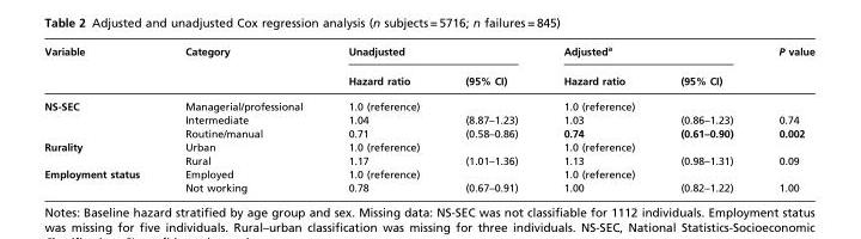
<table><thead><tr><td rowspan="2">Variable</td><td rowspan="2">Category</td><td colspan="2">Unadjusted</td><td colspan="2">Adjusted<sup>a</sup></td><td rowspan="2">P value</td></tr><tr><td>Hazard ratio</td><td>(95% CI)</td><td>Hazard ratio</td><td>(95% CI)</td></tr></thead><tbody><tr><td rowspan="3">NS-SEC</td><td>Managerial/professional</td><td>1.0 (reference)</td><td></td><td>1.0 (reference)</td><td></td><td></td></tr><tr><td>Intermediate</td><td>1.04</td><td>(8.87–1.23)</td><td>1.03</td><td>(0.86–1.23)</td><td>0.74</td></tr><tr><td>Routine/manual</td><td>0.71</td><td>(0.58–0.86)</td><td>0.74</td><td>(0.61–0.90)</td><td>0.002</td></tr><tr><td rowspan="2">Rurality</td><td>Urban</td><td>1.0 (reference)</td><td></td><td>1.0 (reference)</td><td></td><td></td></tr><tr><td>Rural</td><td>1.17</td><td>(1.01–1.36)</td><td>1.13</td><td>(0.98–1.31)</td><td>0.09</td></tr><tr><td rowspan="2">Employment status</td><td>Employed</td><td>1.0 (reference)</td><td></td><td>1.0 (reference)</td><td></td><td></td></tr><tr><td>Not working</td><td>0.78</td><td>(0.67–0.91)</td><td>1.00</td><td>(0.82–1.22)</td><td>1.00</td></tr></tbody></table>